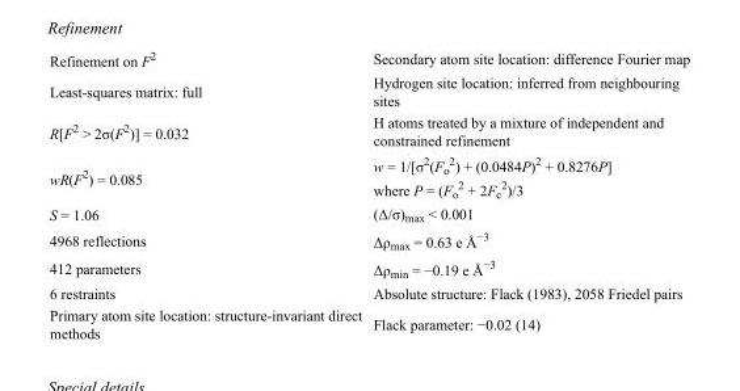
<table><tbody><tr><td>Refinement on F<sup>2</sup></td><td>Secondary atom site location: difference Fourier map</td></tr><tr><td>Least-squares matrix: full</td><td>Hydrogen site location: inferred from neighbouring sites</td></tr><tr><td>R[F<sup>2</sup> &gt; 2σ(F<sup>2</sup>)] = 0.032</td><td>H atoms treated by a mixture of independent and constrained refinement</td></tr><tr><td>wR(F<sup>2</sup>) = 0.085</td><td>w = 1/[σ<sup>2</sup>(F<sub>o</sub> <sup>2</sup>) + (0.0484P)<sup>2</sup> + 0.8276P] where P = (F<sub>o</sub> <sup>2</sup> + 2F<sub>c</sub> <sup>2</sup>)/3</td></tr><tr><td>S = 1.06</td><td>(Δ/σ)<sub>max</sub> &lt; 0.001</td></tr><tr><td>4968 reflections</td><td>Δρ<sub>max</sub> = 0.63 e Å<sup>−3</sup></td></tr><tr><td>412 parameters</td><td>Δρ<sub>min</sub> = −0.19 e Å<sup>−3</sup></td></tr><tr><td>6 restraints</td><td>Absolute structure: Flack (1983), 2058 Friedel pairs</td></tr><tr><td>Primary atom site location: structure-invariant direct methods</td><td>Flack parameter: −0.02 (14)</td></tr></tbody></table>